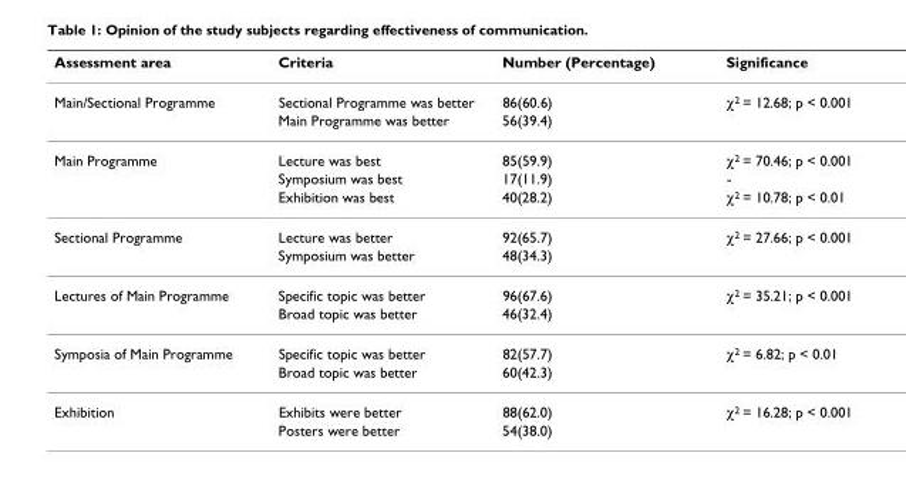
<table><thead><tr><td>Assessment area</td><td>Criteria</td><td>Number (Percentage)</td><td>Significance</td></tr></thead><tbody><tr><td rowspan="2">Main/Sectional Programme</td><td>Sectional Programme was better</td><td>86(60.6)</td><td>χ<sup>2</sup> = 12.68; p &lt; 0.001</td></tr><tr><td>Main Programme was better</td><td>56(39.4)</td><td></td></tr><tr><td rowspan="3">Main Programme</td><td>Lecture was best</td><td>85(59.9)</td><td>χ<sup>2</sup> = 70.46; p &lt; 0.001</td></tr><tr><td>Symposium was best</td><td>17(11.9)</td><td>-</td></tr><tr><td>Exhibition was best</td><td>40(28.2)</td><td>χ<sup>2</sup> = 10.78; p &lt; 0.01</td></tr><tr><td rowspan="2">Sectional Programme</td><td>Lecture was better</td><td>92(65.7)</td><td>χ<sup>2</sup> = 27.66; p &lt; 0.001</td></tr><tr><td>Symposium was better</td><td>48(34.3)</td><td></td></tr><tr><td rowspan="2">Lectures of Main Programme</td><td>Specific topic was better</td><td>96(67.6)</td><td>χ<sup>2</sup> = 35.21; p &lt; 0.001</td></tr><tr><td>Broad topic was better</td><td>46(32.4)</td><td></td></tr><tr><td rowspan="2">Symposia of Main Programme</td><td>Specific topic was better</td><td>82(57.7)</td><td>χ<sup>2</sup> = 6.82; p &lt; 0.01</td></tr><tr><td>Broad topic was better</td><td>60(42.3)</td><td></td></tr><tr><td rowspan="2">Exhibition</td><td>Exhibits were better</td><td>88(62.0)</td><td>χ<sup>2</sup> = 16.28; p &lt; 0.001</td></tr><tr><td>Posters were better</td><td>54(38.0)</td><td></td></tr></tbody></table>